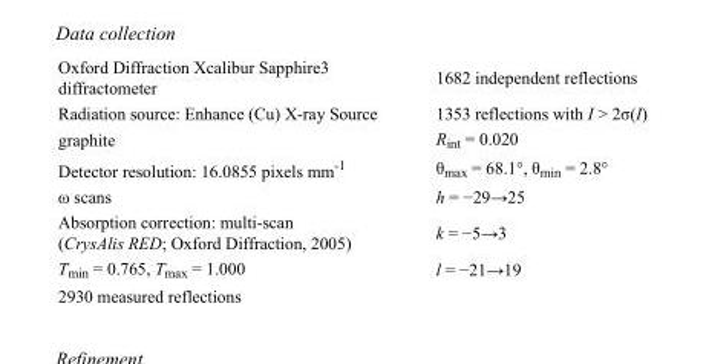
<table><tbody><tr><td>Oxford Diffraction Xcalibur Sapphire3 diffractometer</td><td>1682 independent reflections</td></tr><tr><td>Radiation source: Enhance (Cu) X-ray Source</td><td>1353 reflections with I &gt; 2σ(I)</td></tr><tr><td>graphite</td><td>R<sub>int</sub> = 0.020</td></tr><tr><td>Detector resolution: 16.0855 pixels mm<sup>-1</sup></td><td>θ<sub>max</sub> = 68.1°, θ<sub>min</sub> = 2.8°</td></tr><tr><td>ω scans</td><td>h = −29→25</td></tr><tr><td>Absorption correction: multi-scan (CrysAlis RED; Oxford Diffraction, 2005)</td><td>k = −5→3</td></tr><tr><td>T<sub>min</sub> = 0.765, T<sub>max</sub> = 1.000</td><td>l = −21→19</td></tr><tr><td>2930 measured reflections</td><td></td></tr></tbody></table>